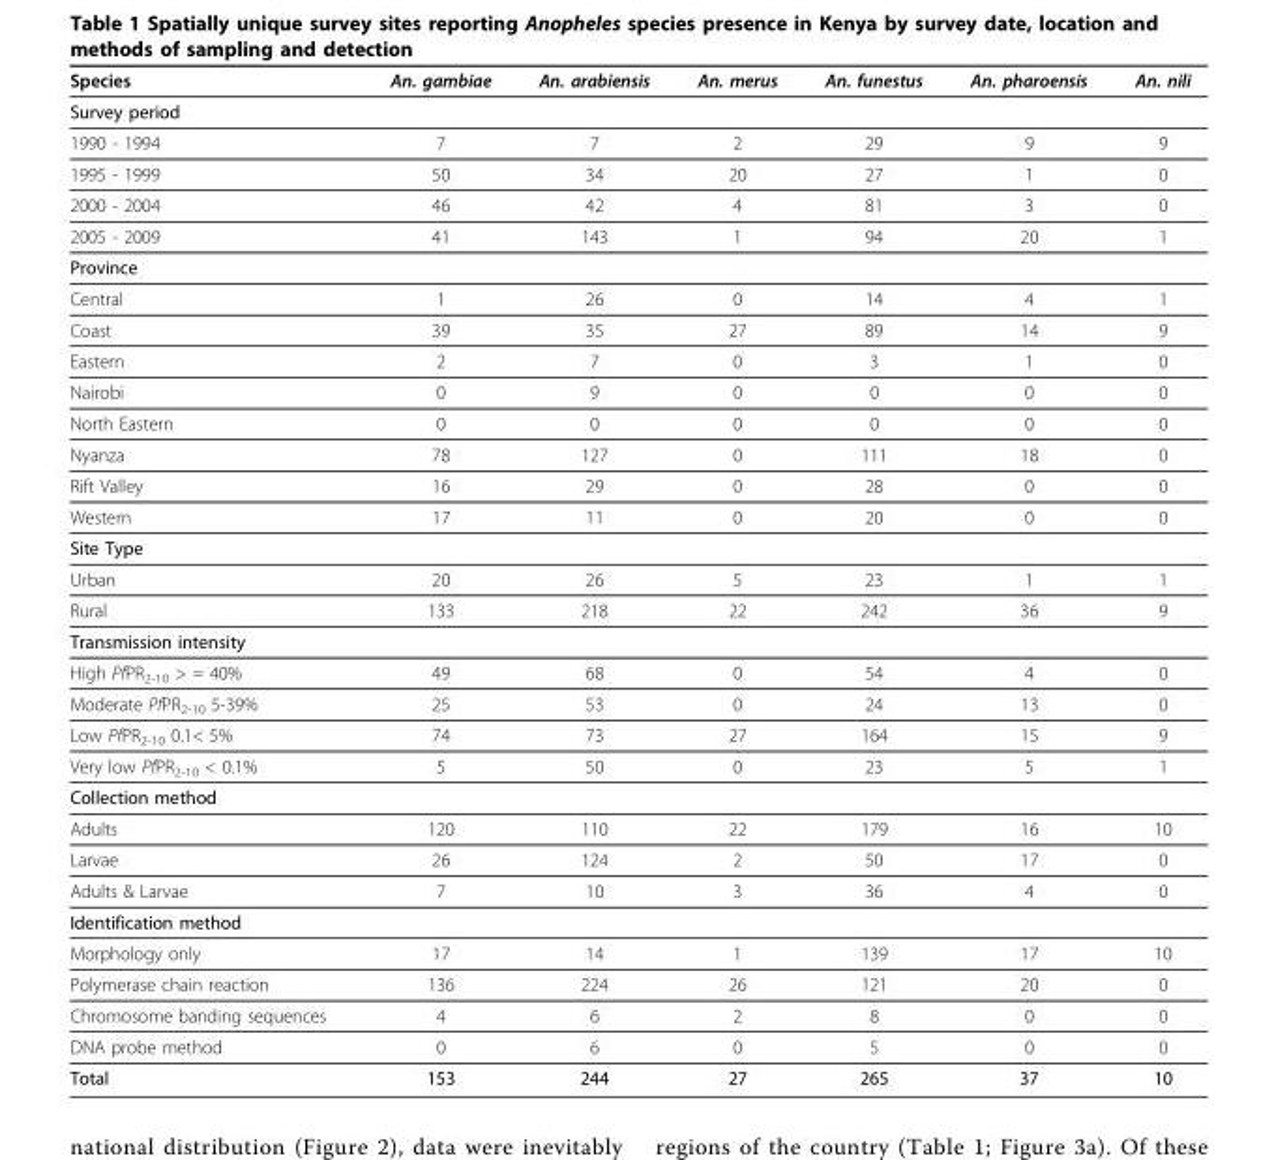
<table><thead><tr><td>Species</td><td>An. gambiae</td><td>An. arabiensis</td><td>An. merus</td><td>An. funestus</td><td>An. pharoensis</td><td>An. nili</td></tr></thead><tbody><tr><td colspan="7">Survey period</td></tr><tr><td>1990 - 1994</td><td>7</td><td>7</td><td>2</td><td>29</td><td>9</td><td>9</td></tr><tr><td>1995 - 1999</td><td>50</td><td>34</td><td>20</td><td>27</td><td>1</td><td>0</td></tr><tr><td>2000 - 2004</td><td>46</td><td>42</td><td>4</td><td>81</td><td>3</td><td>0</td></tr><tr><td>2005 - 2009</td><td>41</td><td>143</td><td>1</td><td>94</td><td>20</td><td>1</td></tr><tr><td colspan="7">Province</td></tr><tr><td>Central</td><td>1</td><td>26</td><td>0</td><td>14</td><td>4</td><td>1</td></tr><tr><td>Coast</td><td>39</td><td>35</td><td>27</td><td>89</td><td>14</td><td>9</td></tr><tr><td>Eastern</td><td>2</td><td>7</td><td>0</td><td>3</td><td>1</td><td>0</td></tr><tr><td>Nairobi</td><td>0</td><td>9</td><td>0</td><td>0</td><td>0</td><td>0</td></tr><tr><td>North Eastern</td><td>0</td><td>0</td><td>0</td><td>0</td><td>0</td><td>0</td></tr><tr><td>Nyanza</td><td>78</td><td>127</td><td>0</td><td>111</td><td>18</td><td>0</td></tr><tr><td>Rift Valley</td><td>16</td><td>29</td><td>0</td><td>28</td><td>0</td><td>0</td></tr><tr><td>Western</td><td>17</td><td>11</td><td>0</td><td>20</td><td>0</td><td>0</td></tr><tr><td colspan="7">Site Type</td></tr><tr><td>Urban</td><td>20</td><td>26</td><td>5</td><td>23</td><td>1</td><td>1</td></tr><tr><td>Rural</td><td>133</td><td>218</td><td>22</td><td>242</td><td>36</td><td>9</td></tr><tr><td colspan="7">Transmission intensity</td></tr><tr><td>High PfPR<sub>2-10</sub> &gt; = 40%</td><td>49</td><td>68</td><td>0</td><td>54</td><td>4</td><td>0</td></tr><tr><td>Moderate PfPR<sub>2-10</sub> 5-39%</td><td>25</td><td>53</td><td>0</td><td>24</td><td>13</td><td>0</td></tr><tr><td>Low PfPR<sub>2-10</sub> 0.1&lt; 5%</td><td>74</td><td>73</td><td>27</td><td>164</td><td>15</td><td>9</td></tr><tr><td>Very low PfPR<sub>2-10</sub> &lt; 0.1%</td><td>5</td><td>50</td><td>0</td><td>23</td><td>5</td><td>1</td></tr><tr><td colspan="7">Collection method</td></tr><tr><td>Adults</td><td>120</td><td>110</td><td>22</td><td>179</td><td>16</td><td>10</td></tr><tr><td>Larvae</td><td>26</td><td>124</td><td>2</td><td>50</td><td>17</td><td>0</td></tr><tr><td>Adults &amp; Larvae</td><td>7</td><td>10</td><td>3</td><td>36</td><td>4</td><td>0</td></tr><tr><td colspan="7">Identification method</td></tr><tr><td>Morphology only</td><td>17</td><td>14</td><td>1</td><td>139</td><td>17</td><td>10</td></tr><tr><td>Polymerase chain reaction</td><td>136</td><td>224</td><td>26</td><td>121</td><td>20</td><td>0</td></tr><tr><td>Chromosome banding sequences</td><td>4</td><td>6</td><td>2</td><td>8</td><td>0</td><td>0</td></tr><tr><td>DNA probe method</td><td>0</td><td>6</td><td>0</td><td>5</td><td>0</td><td>0</td></tr><tr><td>Total</td><td>153</td><td>244</td><td>27</td><td>265</td><td>37</td><td>10</td></tr></tbody></table>